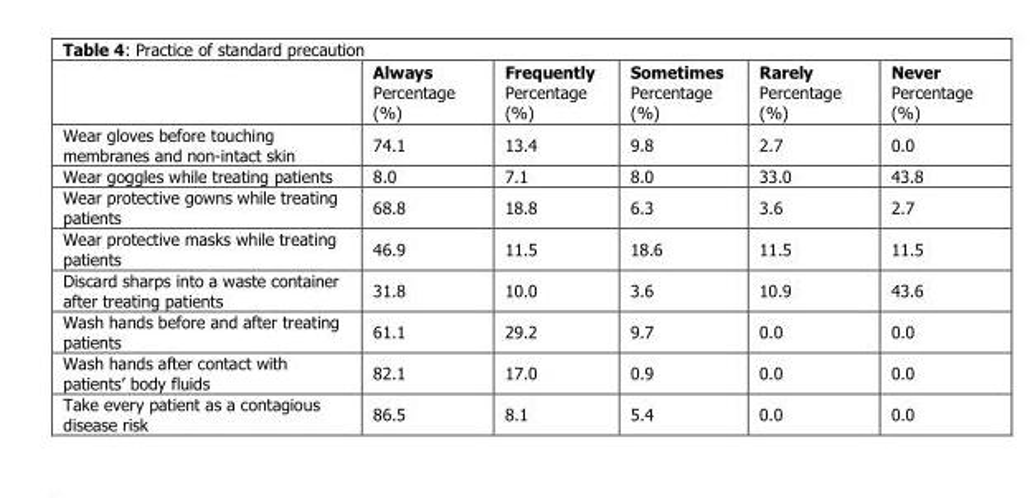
<table><thead><tr><td></td><td>Always Percentage (%)</td><td>Frequently Percentage (%)</td><td>Sometimes Percentage (%)</td><td>Rarely Percentage (%)</td><td>Never Percentage (%)</td></tr></thead><tbody><tr><td>Wear gloves before touching membranes and non-intact skin</td><td>74.1</td><td>13.4</td><td>9.8</td><td>2.7</td><td>0.0</td></tr><tr><td>Wear goggles while treating patients</td><td>8.0</td><td>7.1</td><td>8.0</td><td>33.0</td><td>43.8</td></tr><tr><td>Wear protective gowns while treating patients</td><td>68.8</td><td>18.8</td><td>6.3</td><td>3.6</td><td>2.7</td></tr><tr><td>Wear protective masks while treating patients</td><td>46.9</td><td>11.5</td><td>18.6</td><td>11.5</td><td>11.5</td></tr><tr><td>Discard sharps into a waste container after treating patients</td><td>31.8</td><td>10.0</td><td>3.6</td><td>10.9</td><td>43.6</td></tr><tr><td>Wash hands before and after treating patients</td><td>61.1</td><td>29.2</td><td>9.7</td><td>0.0</td><td>0.0</td></tr><tr><td>Wash hands after contact with patients’ body fluids</td><td>82.1</td><td>17.0</td><td>0.9</td><td>0.0</td><td>0.0</td></tr><tr><td>Take every patient as a contagious disease risk</td><td>86.5</td><td>8.1</td><td>5.4</td><td>0.0</td><td>0.0</td></tr></tbody></table>